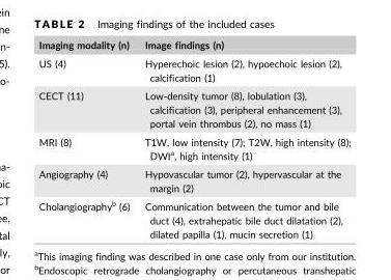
<table><thead><tr><td>Imaging modality (n)</td><td>Image findings (n)</td></tr></thead><tbody><tr><td>US (4)</td><td>Hyperechoic lesion (2), hypoechoic lesion (2), calcification (1)</td></tr><tr><td>CECT (11)</td><td>Low-density tumor (8), lobulation (3), calcification (3), peripheral enhancement (3), portal vein thrombus (2), no mass (1)</td></tr><tr><td>MRI (8)</td><td>T1W, low intensity (7); T2W, high intensity (8); DWI<sup>a</sup>, high intensity (1)</td></tr><tr><td>Angiography (4)</td><td>Hypovascular tumor (2), hypervascular at the margin (2)</td></tr><tr><td>Cholangiography<sup>b</sup> (6)</td><td>Communication between the tumor and bile duct (4), extrahepatic bile duct dilatation (2), dilated papilla (1), mucin secretion (1)</td></tr></tbody></table>